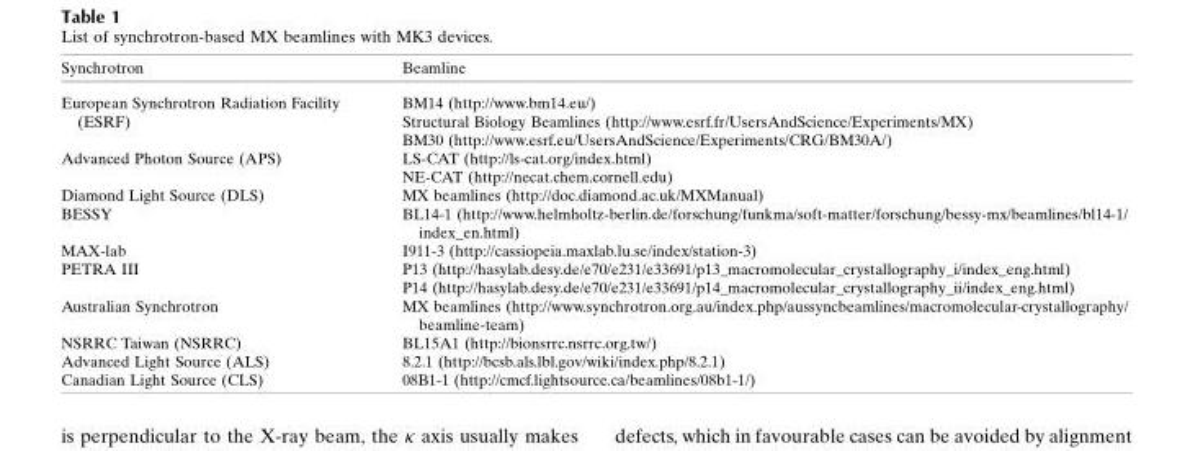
<table><thead><tr><td>Synchrotron</td><td>Beamline</td></tr></thead><tbody><tr><td rowspan="3">European Synchrotron Radiation Facility (ESRF)</td><td>BM14 (http://www.bm14.eu/)</td></tr><tr><td>Structural Biology Beamlines (http://www.esrf.fr/UsersAndScience/Experiments/MX)</td></tr><tr><td>BM30 (http://www.esrf.eu/UsersAndScience/Experiments/CRG/BM30A/)</td></tr><tr><td rowspan="2">Advanced Photon Source (APS)</td><td>LS-CAT (http://ls-cat.org/index.html)</td></tr><tr><td>NE-CAT (http://necat.chem.cornell.edu)</td></tr><tr><td>Diamond Light Source (DLS)</td><td>MX beamlines (http://doc.diamond.ac.uk/MXManual)</td></tr><tr><td>BESSY</td><td>BL14-1 (http://www.helmholtz-berlin.de/forschung/funkma/soft-matter/forschung/bessy-mx/beamlines/bl14-1/ index_en.html)</td></tr><tr><td>MAX-lab</td><td>I911-3 (http://cassiopeia.maxlab.lu.se/index/station-3)</td></tr><tr><td rowspan="2">PETRA III</td><td>P13 (http://hasylab.desy.de/e70/e231/e33691/p13_macromolecular_crystallography_i/index_eng.html)</td></tr><tr><td>P14 (http://hasylab.desy.de/e70/e231/e33691/p14_macromolecular_crystallography_ii/index_eng.html)</td></tr><tr><td>Australian Synchrotron</td><td>MX beamlines (http://www.synchrotron.org.au/index.php/aussyncbeamlines/macromolecular-crystallography/ beamline-team)</td></tr><tr><td>NSRRC Taiwan (NSRRC)</td><td>BL15A1 (http://bionsrrc.nsrrc.org.tw/)</td></tr><tr><td>Advanced Light Source (ALS)</td><td>8.2.1 (http://bcsb.als.lbl.gov/wiki/index.php/8.2.1)</td></tr><tr><td>Canadian Light Source (CLS)</td><td>08B1-1 (http://cmcf.lightsource.ca/beamlines/08b1-1/)</td></tr></tbody></table>